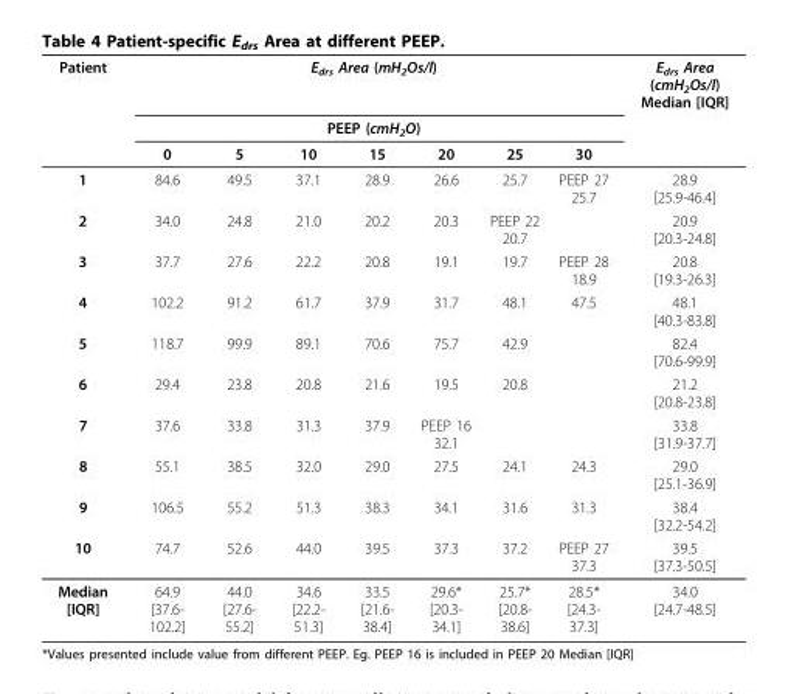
<table><thead><tr><td rowspan="3">Patient</td><td rowspan="2" colspan="7">E<sub>drs</sub> Area (mH<sub>2</sub>Os/l) PEEP (cmH<sub>2</sub>O)</td><td rowspan="3">E<sub>drs</sub> Area (cmH<sub>2</sub>Os/l) Median [IQR]</td></tr><tr></tr><tr><td>0</td><td>5</td><td>10</td><td>15</td><td>20</td><td>25</td><td>30</td></tr></thead><tbody><tr><td>1</td><td>84.6</td><td>49.5</td><td>37.1</td><td>28.9</td><td>26.6</td><td>25.7</td><td>PEEP 27 25.7</td><td>28.9 [25.9-46.4]</td></tr><tr><td>2</td><td>34.0</td><td>24.8</td><td>21.0</td><td>20.2</td><td>20.3</td><td>PEEP 22 20.7</td><td></td><td>20.9 [20.3-24.8]</td></tr><tr><td>3</td><td>37.7</td><td>27.6</td><td>22.2</td><td>20.8</td><td>19.1</td><td>19.7</td><td>PEEP 28 18.9</td><td>20.8 [19.3-26.3]</td></tr><tr><td>4</td><td>102.2</td><td>91.2</td><td>61.7</td><td>37.9</td><td>31.7</td><td>48.1</td><td>47.5</td><td>48.1 [40.3-83.8]</td></tr><tr><td>5</td><td>118.7</td><td>99.9</td><td>89.1</td><td>70.6</td><td>75.7</td><td>42.9</td><td></td><td>82.4 [70.6-99.9]</td></tr><tr><td>6</td><td>29.4</td><td>23.8</td><td>20.8</td><td>21.6</td><td>19.5</td><td>20.8</td><td></td><td>21.2 [20.8-23.8]</td></tr><tr><td>7</td><td>37.6</td><td>33.8</td><td>31.3</td><td>37.9</td><td>PEEP 16 32.1</td><td></td><td></td><td>33.8 [31.9-37.7]</td></tr><tr><td>8</td><td>55.1</td><td>38.5</td><td>32.0</td><td>29.0</td><td>27.5</td><td>24.1</td><td>24.3</td><td>29.0 [25.1-36.9]</td></tr><tr><td>9</td><td>106.5</td><td>55.2</td><td>51.3</td><td>38.3</td><td>34.1</td><td>31.6</td><td>31.3</td><td>38.4 [32.2-54.2]</td></tr><tr><td>10</td><td>74.7</td><td>52.6</td><td>44.0</td><td>39.5</td><td>37.3</td><td>37.2</td><td>PEEP 27 37.3</td><td>39.5 [37.3-50.5]</td></tr><tr><td>Median [IQR]</td><td>64.9 [37.6- 102.2]</td><td>44.0 [27.6- 55.2]</td><td>34.6 [22.2- 51.3]</td><td>33.5 [21.6- 38.4]</td><td>29.6* [20.3- 34.1]</td><td>25.7* [20.8- 38.6]</td><td>28.5* [24.3- 37.3]</td><td>34.0 [24.7-48.5]</td></tr></tbody></table>